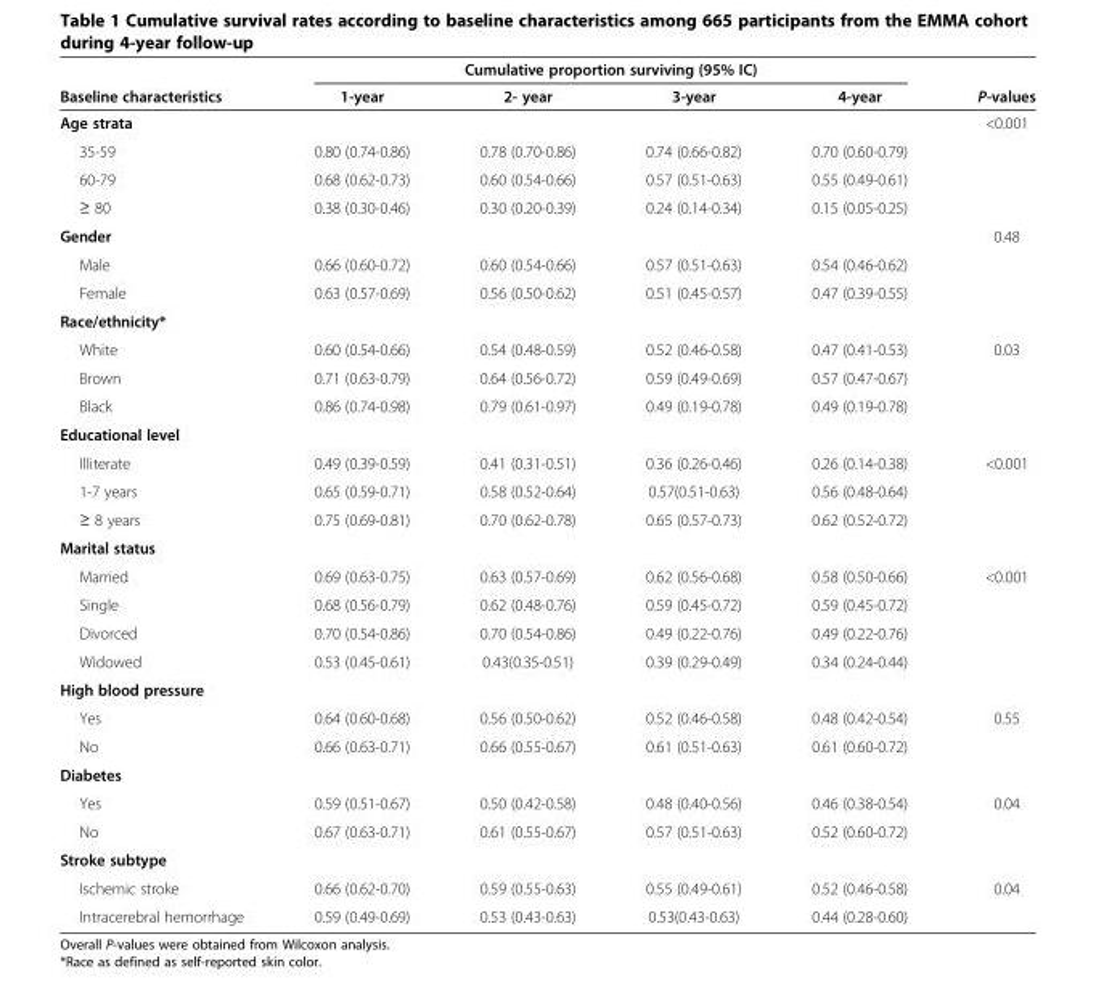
<table><thead><tr><td rowspan="2">Baseline characteristics</td><td colspan="4">Cumulative proportion surviving (95% IC)</td><td rowspan="2">P-values</td></tr><tr><td>1-year</td><td>2- year</td><td>3-year</td><td>4-year</td></tr></thead><tbody><tr><td>Age strata</td><td></td><td></td><td></td><td></td><td>&lt;0.001</td></tr><tr><td>35-59</td><td>0.80 (0.74-0.86)</td><td>0.78 (0.70-0.86)</td><td>0.74 (0.66-0.82)</td><td>0.70 (0.60-0.79)</td><td></td></tr><tr><td>60-79</td><td>0.68 (0.62-0.73)</td><td>0.60 (0.54-0.66)</td><td>0.57 (0.51-0.63)</td><td>0.55 (0.49-0.61)</td><td></td></tr><tr><td>≥ 80</td><td>0.38 (0.30-0.46)</td><td>0.30 (0.20-0.39)</td><td>0.24 (0.14-0.34)</td><td>0.15 (0.05-0.25)</td><td></td></tr><tr><td>Gender</td><td></td><td></td><td></td><td></td><td>0.48</td></tr><tr><td>Male</td><td>0.66 (0.60-0.72)</td><td>0.60 (0.54-0.66)</td><td>0.57 (0.51-0.63)</td><td>0.54 (0.46-0.62)</td><td></td></tr><tr><td>Female</td><td>0.63 (0.57-0.69)</td><td>0.56 (0.50-0.62)</td><td>0.51 (0.45-0.57)</td><td>0.47 (0.39-0.55)</td><td></td></tr><tr><td colspan="6">Race/ethnicity*</td></tr><tr><td>White</td><td>0.60 (0.54-0.66)</td><td>0.54 (0.48-0.59)</td><td>0.52 (0.46-0.58)</td><td>0.47 (0.41-0.53)</td><td>0.03</td></tr><tr><td>Brown</td><td>0.71 (0.63-0.79)</td><td>0.64 (0.56-0.72)</td><td>0.59 (0.49-0.69)</td><td>0.57 (0.47-0.67)</td><td></td></tr><tr><td>Black</td><td>0.86 (0.74-0.98)</td><td>0.79 (0.61-0.97)</td><td>0.49 (0.19-0.78)</td><td>0.49 (0.19-0.78)</td><td></td></tr><tr><td colspan="6">Educational level</td></tr><tr><td>Illiterate</td><td>0.49 (0.39-0.59)</td><td>0.41 (0.31-0.51)</td><td>0.36 (0.26-0.46)</td><td>0.26 (0.14-0.38)</td><td>&lt;0.001</td></tr><tr><td>1-7 years</td><td>0.65 (0.59-0.71)</td><td>0.58 (0.52-0.64)</td><td>0.57(0.51-0.63)</td><td>0.56 (0.48-0.64)</td><td></td></tr><tr><td>≥ 8 years</td><td>0.75 (0.69-0.81)</td><td>0.70 (0.62-0.78)</td><td>0.65 (0.57-0.73)</td><td>0.62 (0.52-0.72)</td><td></td></tr><tr><td colspan="6">Marital status</td></tr><tr><td>Married</td><td>0.69 (0.63-0.75)</td><td>0.63 (0.57-0.69)</td><td>0.62 (0.56-0.68)</td><td>0.58 (0.50-0.66)</td><td>&lt;0.001</td></tr><tr><td>Single</td><td>0.68 (0.56-0.79)</td><td>0.62 (0.48-0.76)</td><td>0.59 (0.45-0.72)</td><td>0.59 (0.45-0.72)</td><td></td></tr><tr><td>Divorced</td><td>0.70 (0.54-0.86)</td><td>0.70 (0.54-0.86)</td><td>0.49 (0.22-0.76)</td><td>0.49 (0.22-0.76)</td><td></td></tr><tr><td>Widowed</td><td>0.53 (0.45-0.61)</td><td>0.43(0.35-0.51)</td><td>0.39 (0.29-0.49)</td><td>0.34 (0.24-0.44)</td><td></td></tr><tr><td colspan="6">High blood pressure</td></tr><tr><td>Yes</td><td>0.64 (0.60-0.68)</td><td>0.56 (0.50-0.62)</td><td>0.52 (0.46-0.58)</td><td>0.48 (0.42-0.54)</td><td>0.55</td></tr><tr><td>No</td><td>0.66 (0.63-0.71)</td><td>0.66 (0.55-0.67)</td><td>0.61 (0.51-0.63)</td><td>0.61 (0.60-0.72)</td><td></td></tr><tr><td colspan="6">Diabetes</td></tr><tr><td>Yes</td><td>0.59 (0.51-0.67)</td><td>0.50 (0.42-0.58)</td><td>0.48 (0.40-0.56)</td><td>0.46 (0.38-0.54)</td><td>0.04</td></tr><tr><td>No</td><td>0.67 (0.63-0.71)</td><td>0.61 (0.55-0.67)</td><td>0.57 (0.51-0.63)</td><td>0.52 (0.60-0.72)</td><td></td></tr><tr><td colspan="6">Stroke subtype</td></tr><tr><td>Ischemic stroke</td><td>0.66 (0.62-0.70)</td><td>0.59 (0.55-0.63)</td><td>0.55 (0.49-0.61)</td><td>0.52 (0.46-0.58)</td><td>0.04</td></tr><tr><td>Intracerebral hemorrhage</td><td>0.59 (0.49-0.69)</td><td>0.53 (0.43-0.63)</td><td>0.53(0.43-0.63)</td><td>0.44 (0.28-0.60)</td><td></td></tr></tbody></table>